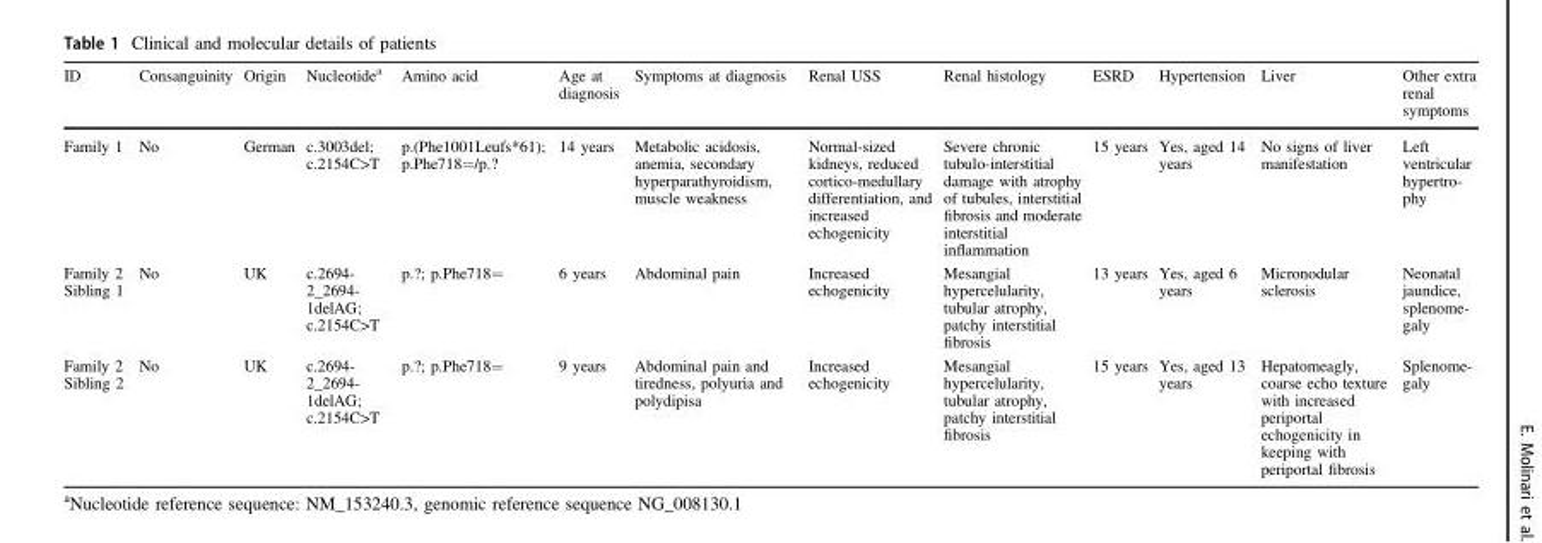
<table><thead><tr><td>ID</td><td>Consanguinity</td><td>Origin</td><td>Nucleotide<sup>a</sup></td><td>Amino acid</td><td>Age at diagnosis</td><td>Symptoms at diagnosis</td><td>Renal USS</td><td>Renal histology</td><td>ESRD</td><td>Hypertension</td><td>Liver</td><td>Other extra renal symptoms</td></tr></thead><tbody><tr><td>Family 1</td><td>No</td><td>German</td><td>c.3003del; c.2154C&gt;T</td><td>p.(Phe1001Leufs*61); p.Phe718=/p.?</td><td>14 years</td><td>Metabolic acidosis, anemia, secondary hyperparathyroidism, muscle weakness</td><td>Normal-sized kidneys, reduced cortico-medullary differentiation, and increased echogenicity</td><td>Severe chronic tubulo-interstitial damage with atrophy of tubules, interstitial fibrosis and moderate interstitial inflammation</td><td>15 years</td><td>Yes, aged 14 years</td><td>No signs of liver manifestation</td><td>Left ventricular hypertro- phy</td></tr><tr><td>Family 2 Sibling 1</td><td>No</td><td>UK</td><td>c.2694- 2_2694- 1delAG; c.2154C&gt;T</td><td>p.?; p.Phe718=</td><td>6 years</td><td>Abdominal pain</td><td>Increased echogenicity</td><td>Mesangial hypercelularity, tubular atrophy, patchy interstitial fibrosis</td><td>13 years</td><td>Yes, aged 6 years</td><td>Micronodular sclerosis</td><td>Neonatal jaundice, splenome- galy</td></tr><tr><td>Family 2 Sibling 2</td><td>No</td><td>UK</td><td>c.2694- 2_2694- 1delAG; c.2154C&gt;T</td><td>p.?; p.Phe718=</td><td>9 years</td><td>Abdominal pain and tiredness, polyuria and polydipisa</td><td>Increased echogenicity</td><td>Mesangial hypercelularity, tubular atrophy, patchy interstitial fibrosis</td><td>15 years</td><td>Yes, aged 13 years</td><td>Hepatomeagly, coarse echo texture with increased periportal echogenicity in keeping with periportal fibrosis</td><td>Splenome- galy</td></tr></tbody></table>